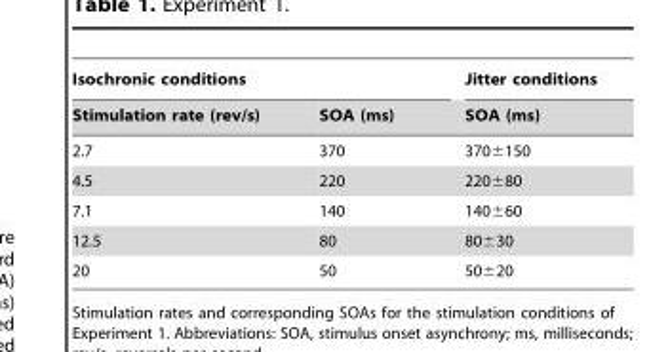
<table><thead><tr><td colspan="2">Isochronic conditions</td><td rowspan="2">Jitter conditions SOA (ms)</td></tr><tr><td>Stimulation rate (rev/s)</td><td>SOA (ms)</td></tr></thead><tbody><tr><td>2.7</td><td>370</td><td>370±150</td></tr><tr><td>4.5</td><td>220</td><td>220±80</td></tr><tr><td>7.1</td><td>140</td><td>140±60</td></tr><tr><td>12.5</td><td>80</td><td>80±30</td></tr><tr><td>20</td><td>50</td><td>50±20</td></tr></tbody></table>